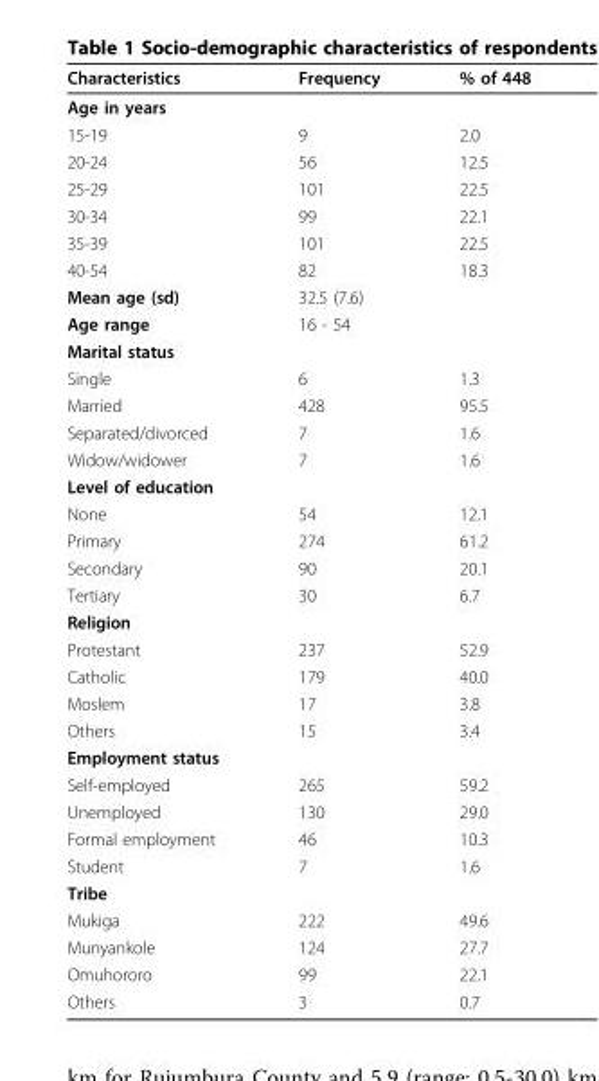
<table><thead><tr><td>Characteristics</td><td>Frequency</td><td>% of 448</td></tr></thead><tbody><tr><td colspan="3">Age in years</td></tr><tr><td>15-19</td><td>9</td><td>2.0</td></tr><tr><td>20-24</td><td>56</td><td>12.5</td></tr><tr><td>25-29</td><td>101</td><td>22.5</td></tr><tr><td>30-34</td><td>99</td><td>22.1</td></tr><tr><td>35-39</td><td>101</td><td>22.5</td></tr><tr><td>40-54</td><td>82</td><td>18.3</td></tr><tr><td>Mean age (sd)</td><td>32.5 (7.6)</td><td></td></tr><tr><td>Age range</td><td>16 - 54</td><td></td></tr><tr><td colspan="3">Marital status</td></tr><tr><td>Single</td><td>6</td><td>1.3</td></tr><tr><td>Married</td><td>428</td><td>95.5</td></tr><tr><td>Separated/divorced</td><td>7</td><td>1.6</td></tr><tr><td>Widow/widower</td><td>7</td><td>1.6</td></tr><tr><td colspan="3">Level of education</td></tr><tr><td>None</td><td>54</td><td>12.1</td></tr><tr><td>Primary</td><td>274</td><td>61.2</td></tr><tr><td>Secondary</td><td>90</td><td>20.1</td></tr><tr><td>Tertiary</td><td>30</td><td>6.7</td></tr><tr><td colspan="3">Religion</td></tr><tr><td>Protestant</td><td>237</td><td>52.9</td></tr><tr><td>Catholic</td><td>179</td><td>40.0</td></tr><tr><td>Moslem</td><td>17</td><td>3.8</td></tr><tr><td>Others</td><td>15</td><td>3.4</td></tr><tr><td colspan="3">Employment status</td></tr><tr><td>Self-employed</td><td>265</td><td>59.2</td></tr><tr><td>Unemployed</td><td>130</td><td>29.0</td></tr><tr><td>Formal employment</td><td>46</td><td>10.3</td></tr><tr><td>Student</td><td>7</td><td>1.6</td></tr><tr><td colspan="3">Tribe</td></tr><tr><td>Mukiga</td><td>222</td><td>49.6</td></tr><tr><td>Munyankole</td><td>124</td><td>27.7</td></tr><tr><td>Omuhororo</td><td>99</td><td>22.1</td></tr><tr><td>Others</td><td>3</td><td>0.7</td></tr></tbody></table>